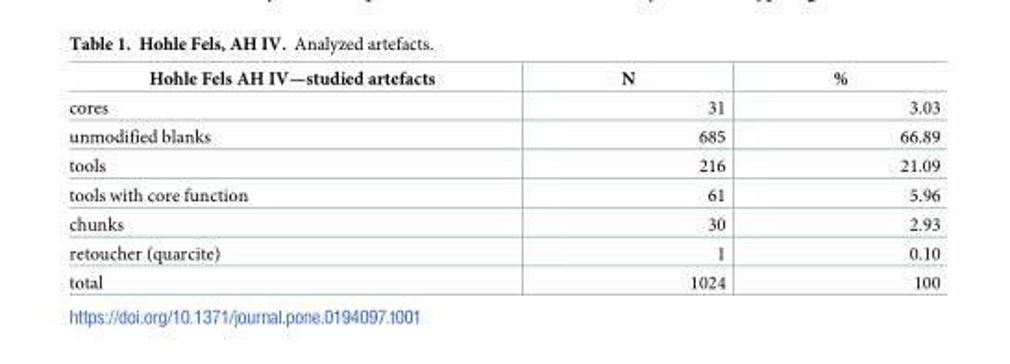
<table><thead><tr><td>Hohle Fels AH IV—studied artefacts</td><td>N</td><td>%</td></tr></thead><tbody><tr><td>cores</td><td>31</td><td>3.03</td></tr><tr><td>unmodified blanks</td><td>685</td><td>66.89</td></tr><tr><td>tools</td><td>216</td><td>21.09</td></tr><tr><td>tools with core function</td><td>61</td><td>5.96</td></tr><tr><td>chunks</td><td>30</td><td>2.93</td></tr><tr><td>retoucher (quarcite)</td><td>1</td><td>0.10</td></tr><tr><td>total</td><td>1024</td><td>100</td></tr></tbody></table>